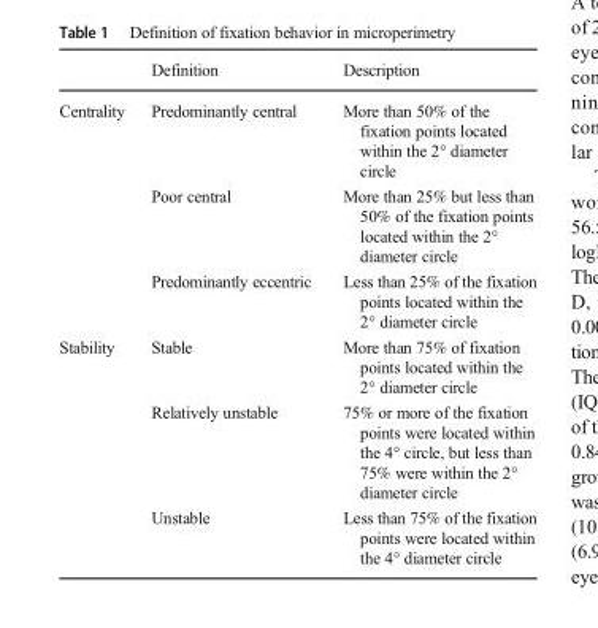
<table><thead><tr><td></td><td>Definition</td><td>Description</td></tr></thead><tbody><tr><td rowspan="3">Centrality</td><td>Predominantly central</td><td>More than 50% of the fixation points located within the 2° diameter circle</td></tr><tr><td>Poor central</td><td>More than 25% but less than 50% of the fixation points located within the 2° diameter circle</td></tr><tr><td>Predominantly eccentric</td><td>Less than 25% of the fixation points located within the 2° diameter circle</td></tr><tr><td rowspan="3">Stability</td><td>Stable</td><td>More than 75% of fixation points located within the 2° diameter circle</td></tr><tr><td>Relatively unstable</td><td>75% or more of the fixation points were located within the 4° circle, but less than 75% were within the 2° diameter circle</td></tr><tr><td>Unstable</td><td>Less than 75% of the fixation points were located within the 4° diameter circle</td></tr></tbody></table>